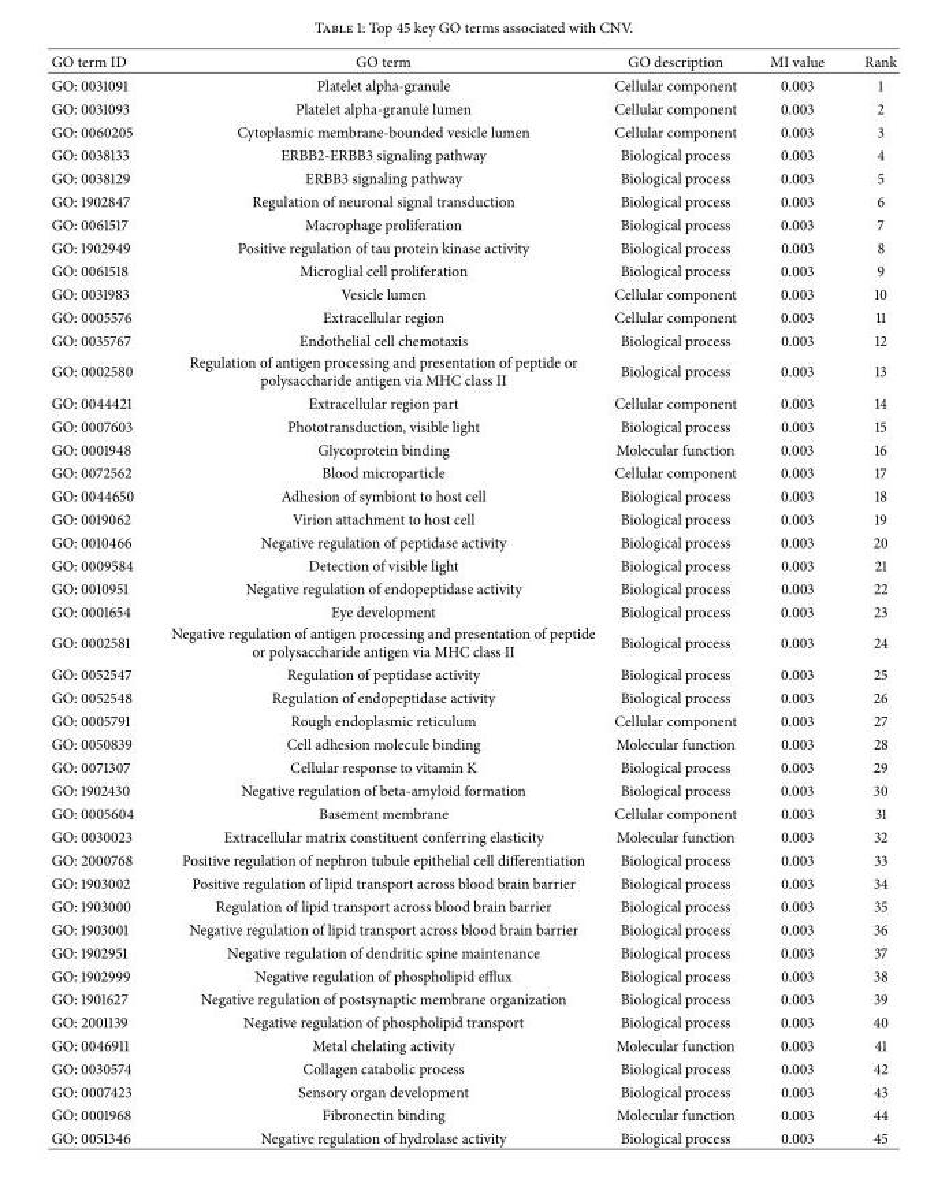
<table><thead><tr><td>GO term ID</td><td>GO term</td><td>GO description</td><td>MI value</td><td>Rank</td></tr></thead><tbody><tr><td>GO: 0031091</td><td>Platelet alpha-granule</td><td>Cellular component</td><td>0.003</td><td>1</td></tr><tr><td>GO: 0031093</td><td>Platelet alpha-granule lumen</td><td>Cellular component</td><td>0.003</td><td>2</td></tr><tr><td>GO: 0060205</td><td>Cytoplasmic membrane-bounded vesicle lumen</td><td>Cellular component</td><td>0.003</td><td>3</td></tr><tr><td>GO: 0038133</td><td>ERBB2-ERBB3 signaling pathway</td><td>Biological process</td><td>0.003</td><td>4</td></tr><tr><td>GO: 0038129</td><td>ERBB3 signaling pathway</td><td>Biological process</td><td>0.003</td><td>5</td></tr><tr><td>GO: 1902847</td><td>Regulation of neuronal signal transduction</td><td>Biological process</td><td>0.003</td><td>6</td></tr><tr><td>GO: 0061517</td><td>Macrophage proliferation</td><td>Biological process</td><td>0.003</td><td>7</td></tr><tr><td>GO: 1902949</td><td>Positive regulation of tau protein kinase activity</td><td>Biological process</td><td>0.003</td><td>8</td></tr><tr><td>GO: 0061518</td><td>Microglial cell proliferation</td><td>Biological process</td><td>0.003</td><td>9</td></tr><tr><td>GO: 0031983</td><td>Vesicle lumen</td><td>Cellular component</td><td>0.003</td><td>10</td></tr><tr><td>GO: 0005576</td><td>Extracellular region</td><td>Cellular component</td><td>0.003</td><td>11</td></tr><tr><td>GO: 0035767</td><td>Endothelial cell chemotaxis</td><td>Biological process</td><td>0.003</td><td>12</td></tr><tr><td>GO: 0002580</td><td>Regulation of antigen processing and presentation of peptide or polysaccharide antigen via MHC class II</td><td>Biological process</td><td>0.003</td><td>13</td></tr><tr><td>GO: 0044421</td><td>Extracellular region part</td><td>Cellular component</td><td>0.003</td><td>14</td></tr><tr><td>GO: 0007603</td><td>Phototransduction, visible light</td><td>Biological process</td><td>0.003</td><td>15</td></tr><tr><td>GO: 0001948</td><td>Glycoprotein binding</td><td>Molecular function</td><td>0.003</td><td>16</td></tr><tr><td>GO: 0072562</td><td>Blood microparticle</td><td>Cellular component</td><td>0.003</td><td>17</td></tr><tr><td>GO: 0044650</td><td>Adhesion of symbiont to host cell</td><td>Biological process</td><td>0.003</td><td>18</td></tr><tr><td>GO: 0019062</td><td>Virion attachment to host cell</td><td>Biological process</td><td>0.003</td><td>19</td></tr><tr><td>GO: 0010466</td><td>Negative regulation of peptidase activity</td><td>Biological process</td><td>0.003</td><td>20</td></tr><tr><td>GO: 0009584</td><td>Detection of visible light</td><td>Biological process</td><td>0.003</td><td>21</td></tr><tr><td>GO: 0010951</td><td>Negative regulation of endopeptidase activity</td><td>Biological process</td><td>0.003</td><td>22</td></tr><tr><td>GO: 0001654</td><td>Eye development</td><td>Biological process</td><td>0.003</td><td>23</td></tr><tr><td>GO: 0002581</td><td>Negative regulation of antigen processing and presentation of peptide or polysaccharide antigen via MHC class II</td><td>Biological process</td><td>0.003</td><td>24</td></tr><tr><td>GO: 0052547</td><td>Regulation of peptidase activity</td><td>Biological process</td><td>0.003</td><td>25</td></tr><tr><td>GO: 0052548</td><td>Regulation of endopeptidase activity</td><td>Biological process</td><td>0.003</td><td>26</td></tr><tr><td>GO: 0005791</td><td>Rough endoplasmic reticulum</td><td>Cellular component</td><td>0.003</td><td>27</td></tr><tr><td>GO: 0050839</td><td>Cell adhesion molecule binding</td><td>Molecular function</td><td>0.003</td><td>28</td></tr><tr><td>GO: 0071307</td><td>Cellular response to vitamin K</td><td>Biological process</td><td>0.003</td><td>29</td></tr><tr><td>GO: 1902430</td><td>Negative regulation of beta-amyloid formation</td><td>Biological process</td><td>0.003</td><td>30</td></tr><tr><td>GO: 0005604</td><td>Basement membrane</td><td>Cellular component</td><td>0.003</td><td>31</td></tr><tr><td>GO: 0030023</td><td>Extracellular matrix constituent conferring elasticity</td><td>Molecular function</td><td>0.003</td><td>32</td></tr><tr><td>GO: 2000768</td><td>Positive regulation of nephron tubule epithelial cell differentiation</td><td>Biological process</td><td>0.003</td><td>33</td></tr><tr><td>GO: 1903002</td><td>Positive regulation of lipid transport across blood brain barrier</td><td>Biological process</td><td>0.003</td><td>34</td></tr><tr><td>GO: 1903000</td><td>Regulation of lipid transport across blood brain barrier</td><td>Biological process</td><td>0.003</td><td>35</td></tr><tr><td>GO: 1903001</td><td>Negative regulation of lipid transport across blood brain barrier</td><td>Biological process</td><td>0.003</td><td>36</td></tr><tr><td>GO: 1902951</td><td>Negative regulation of dendritic spine maintenance</td><td>Biological process</td><td>0.003</td><td>37</td></tr><tr><td>GO: 1902999</td><td>Negative regulation of phospholipid efflux</td><td>Biological process</td><td>0.003</td><td>38</td></tr><tr><td>GO: 1901627</td><td>Negative regulation of postsynaptic membrane organization</td><td>Biological process</td><td>0.003</td><td>39</td></tr><tr><td>GO: 2001139</td><td>Negative regulation of phospholipid transport</td><td>Biological process</td><td>0.003</td><td>40</td></tr><tr><td>GO: 0046911</td><td>Metal chelating activity</td><td>Molecular function</td><td>0.003</td><td>41</td></tr><tr><td>GO: 0030574</td><td>Collagen catabolic process</td><td>Biological process</td><td>0.003</td><td>42</td></tr><tr><td>GO: 0007423</td><td>Sensory organ development</td><td>Biological process</td><td>0.003</td><td>43</td></tr><tr><td>GO: 0001968</td><td>Fibronectin binding</td><td>Molecular function</td><td>0.003</td><td>44</td></tr><tr><td>GO: 0051346</td><td>Negative regulation of hydrolase activity</td><td>Biological process</td><td>0.003</td><td>45</td></tr></tbody></table>